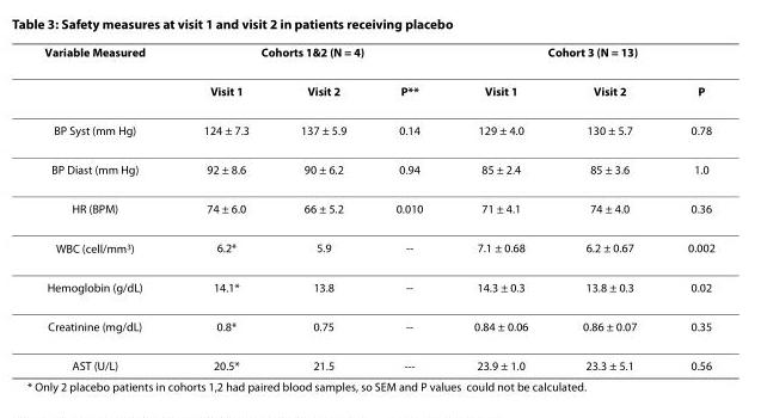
<table><thead><tr><td rowspan="2">Variable Measured</td><td colspan="3">Cohorts 1&amp;2 (N = 4)</td><td colspan="3">Cohort 3 (N = 13)</td></tr><tr><td>Visit 1</td><td>Visit 2</td><td>P**</td><td>Visit 1</td><td>Visit 2</td><td>P</td></tr></thead><tbody><tr><td>BP Syst (mm Hg)</td><td>124 ± 7.3</td><td>137 ± 5.9</td><td>0.14</td><td>129 ± 4.0</td><td>130 ± 5.7</td><td>0.78</td></tr><tr><td>BP Diast (mm Hg)</td><td>92 ± 8.6</td><td>90 ± 6.2</td><td>0.94</td><td>85 ± 2.4</td><td>85 ± 3.6</td><td>1.0</td></tr><tr><td>HR (BPM)</td><td>74 ± 6.0</td><td>66 ± 5.2</td><td>0.010</td><td>71 ± 4.1</td><td>74 ± 4.0</td><td>0.36</td></tr><tr><td>WBC (cell/mm<sup>3</sup>)</td><td>6.2*</td><td>5.9</td><td>--</td><td>7.1 ± 0.68</td><td>6.2 ± 0.67</td><td>0.002</td></tr><tr><td>Hemoglobin (g/dL)</td><td>14.1*</td><td>13.8</td><td>--</td><td>14.3 ± 0.3</td><td>13.8 ± 0.3</td><td>0.02</td></tr><tr><td>Creatinine (mg/dL)</td><td>0.8*</td><td>0.75</td><td>--</td><td>0.84 ± 0.06</td><td>0.86 ± 0.07</td><td>0.35</td></tr><tr><td>AST (U/L)</td><td>20.5*</td><td>21.5</td><td>---</td><td>23.9 ± 1.0</td><td>23.3 ± 5.1</td><td>0.56</td></tr></tbody></table>